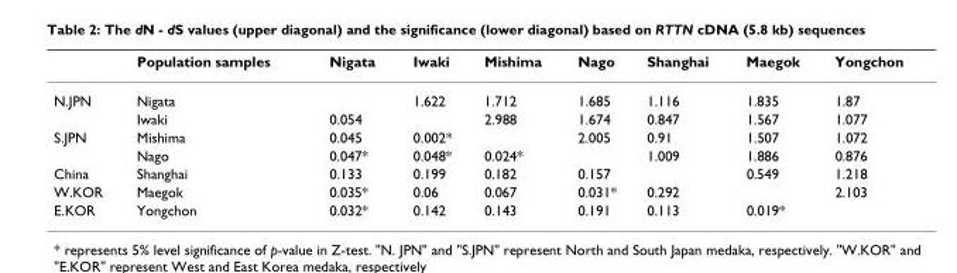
<table><thead><tr><td></td><td>Population samples</td><td>Nigata</td><td>Iwaki</td><td>Mishima</td><td>Nago</td><td>Shanghai</td><td>Maegok</td><td>Yongchon</td></tr></thead><tbody><tr><td rowspan="2">N.JPN</td><td>Nigata</td><td></td><td>1.622</td><td>1.712</td><td>1.685</td><td>1.116</td><td>1.835</td><td>1.87</td></tr><tr><td>Iwaki</td><td>0.054</td><td></td><td>2.988</td><td>1.674</td><td>0.847</td><td>1.567</td><td>1.077</td></tr><tr><td rowspan="2">S.JPN</td><td>Mishima</td><td>0.045</td><td>0.002*</td><td></td><td>2.005</td><td>0.91</td><td>1.507</td><td>1.072</td></tr><tr><td>Nago</td><td>0.047*</td><td>0.048*</td><td>0.024*</td><td></td><td>1.009</td><td>1.886</td><td>0.876</td></tr><tr><td>China</td><td>Shanghai</td><td>0.133</td><td>0.199</td><td>0.182</td><td>0.157</td><td></td><td>0.549</td><td>1.218</td></tr><tr><td>W.KOR</td><td>Maegok</td><td>0.035*</td><td>0.06</td><td>0.067</td><td>0.031*</td><td>0.292</td><td></td><td>2.103</td></tr><tr><td>E.KOR</td><td>Yongchon</td><td>0.032*</td><td>0.142</td><td>0.143</td><td>0.191</td><td>0.113</td><td>0.019*</td><td></td></tr></tbody></table>